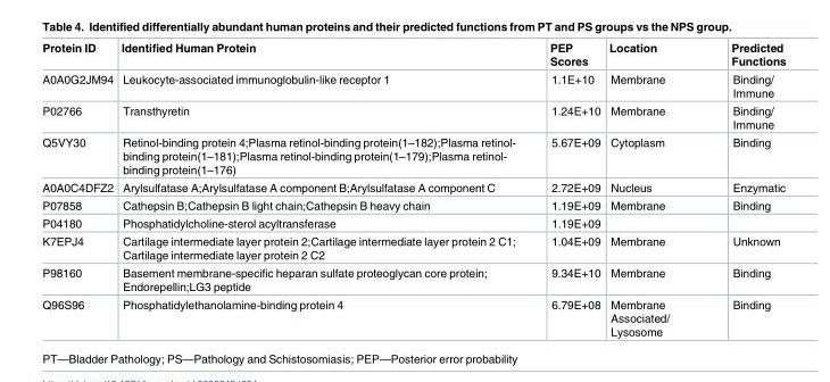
<table><thead><tr><td>Protein ID</td><td>Identified Human Protein</td><td>PEP Scores</td><td>Location</td><td>Predicted Functions</td></tr></thead><tbody><tr><td>A0A0G2JM94</td><td>Leukocyte-associated immunoglobulin-like receptor 1</td><td>1.1E+10</td><td>Membrane</td><td>Binding/ Immune</td></tr><tr><td>P02766</td><td>Transthyretin</td><td>1.24E+10</td><td>Membrane</td><td>Binding/ Immune</td></tr><tr><td>Q5VY30</td><td>Retinol-binding protein 4;Plasma retinol-binding protein(1–182);Plasma retinol- binding protein(1–181);Plasma retinol-binding protein(1–179);Plasma retinol- binding protein(1–176)</td><td>5.67E+09</td><td>Cytoplasm</td><td>Binding</td></tr><tr><td>A0A0C4DFZ2</td><td>Arylsulfatase A;Arylsulfatase A component B;Arylsulfatase A component C</td><td>2.72E+09</td><td>Nucleus</td><td>Enzymatic</td></tr><tr><td>P07858</td><td>Cathepsin B;Cathepsin B light chain;Cathepsin B heavy chain</td><td>1.19E+09</td><td>Membrane</td><td>Binding</td></tr><tr><td>P04180</td><td>Phosphatidylcholine-sterol acyltransferase</td><td>1.19E+09</td><td></td><td></td></tr><tr><td>K7EPJ4</td><td>Cartilage intermediate layer protein 2;Cartilage intermediate layer protein 2 C1; Cartilage intermediate layer protein 2 C2</td><td>1.04E+09</td><td>Membrane</td><td>Unknown</td></tr><tr><td>P98160</td><td>Basement membrane-specific heparan sulfate proteoglycan core protein; Endorepellin;LG3 peptide</td><td>9.34E+10</td><td>Membrane</td><td>Binding</td></tr><tr><td>Q96S96</td><td>Phosphatidylethanolamine-binding protein 4</td><td>6.79E+08</td><td>Membrane Associated/ Lysosome</td><td>Binding</td></tr></tbody></table>